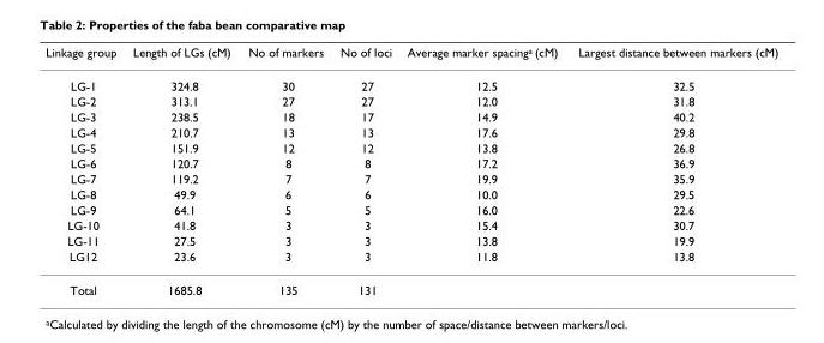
<table><thead><tr><td>Linkage group</td><td>Length of LGs (cM)</td><td>No of markers</td><td>No of loci</td><td>Average marker spacing<sup>a</sup> (cM)</td><td>Largest distance between markers (cM)</td></tr></thead><tbody><tr><td>LG-1</td><td>324.8</td><td>30</td><td>27</td><td>12.5</td><td>32.5</td></tr><tr><td>LG-2</td><td>313.1</td><td>27</td><td>27</td><td>12.0</td><td>31.8</td></tr><tr><td>LG-3</td><td>238.5</td><td>18</td><td>17</td><td>14.9</td><td>40.2</td></tr><tr><td>LG-4</td><td>210.7</td><td>13</td><td>13</td><td>17.6</td><td>29.8</td></tr><tr><td>LG-5</td><td>151.9</td><td>12</td><td>12</td><td>13.8</td><td>26.8</td></tr><tr><td>LG-6</td><td>120.7</td><td>8</td><td>8</td><td>17.2</td><td>36.9</td></tr><tr><td>LG-7</td><td>119.2</td><td>7</td><td>7</td><td>19.9</td><td>35.9</td></tr><tr><td>LG-8</td><td>49.9</td><td>6</td><td>6</td><td>10.0</td><td>29.5</td></tr><tr><td>LG-9</td><td>64.1</td><td>5</td><td>5</td><td>16.0</td><td>22.6</td></tr><tr><td>LG-10</td><td>41.8</td><td>3</td><td>3</td><td>15.4</td><td>30.7</td></tr><tr><td>LG-11</td><td>27.5</td><td>3</td><td>3</td><td>13.8</td><td>19.9</td></tr><tr><td>LG12</td><td>23.6</td><td>3</td><td>3</td><td>11.8</td><td>13.8</td></tr><tr><td>Total</td><td>1685.8</td><td>135</td><td>131</td><td></td><td></td></tr></tbody></table>